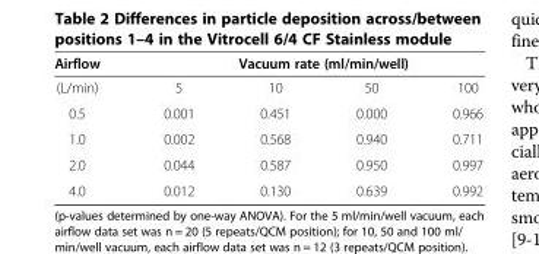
<table><thead><tr><td rowspan="2">Airflow (L/min)</td><td colspan="4">Vacuum rate (ml/min/well)</td></tr><tr><td>5</td><td>10</td><td>50</td><td>100</td></tr></thead><tbody><tr><td>0.5</td><td>0.001</td><td>0.451</td><td>0.000</td><td>0.966</td></tr><tr><td>1.0</td><td>0.002</td><td>0.568</td><td>0.940</td><td>0.711</td></tr><tr><td>2.0</td><td>0.044</td><td>0.587</td><td>0.950</td><td>0.997</td></tr><tr><td>4.0</td><td>0.012</td><td>0.130</td><td>0.639</td><td>0.992</td></tr></tbody></table>